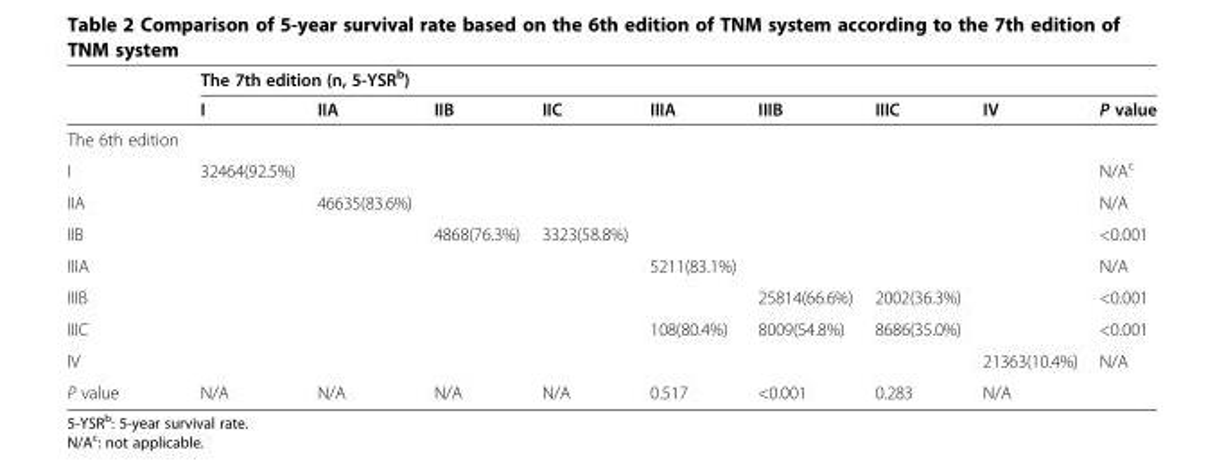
<table><thead><tr><td rowspan="2"></td><td colspan="9">The 7th edition (n, 5-YSR<sup>b</sup>)</td></tr><tr><td>I</td><td>IIA</td><td>IIB</td><td>IIC</td><td>IIIA</td><td>IIIB</td><td>IIIC</td><td>IV</td><td>P value</td></tr></thead><tbody><tr><td colspan="10">The 6th edition</td></tr><tr><td>I</td><td>32464(92.5%)</td><td></td><td></td><td></td><td></td><td></td><td></td><td></td><td>N/A<sup>c</sup></td></tr><tr><td>IIA</td><td></td><td>46635(83.6%)</td><td></td><td></td><td></td><td></td><td></td><td></td><td>N/A</td></tr><tr><td>IIB</td><td></td><td></td><td>4868(76.3%)</td><td>3323(58.8%)</td><td></td><td></td><td></td><td></td><td>&lt;0.001</td></tr><tr><td>IIIA</td><td></td><td></td><td></td><td></td><td>5211(83.1%)</td><td></td><td></td><td></td><td>N/A</td></tr><tr><td>IIIB</td><td></td><td></td><td></td><td></td><td></td><td>25814(66.6%)</td><td>2002(36.3%)</td><td></td><td>&lt;0.001</td></tr><tr><td>IIIC</td><td></td><td></td><td></td><td></td><td>108(80.4%)</td><td>8009(54.8%)</td><td>8686(35.0%)</td><td></td><td>&lt;0.001</td></tr><tr><td>IV</td><td></td><td></td><td></td><td></td><td></td><td></td><td></td><td>21363(10.4%)</td><td>N/A</td></tr><tr><td>P value</td><td>N/A</td><td>N/A</td><td>N/A</td><td>N/A</td><td>0.517</td><td>&lt;0.001</td><td>0.283</td><td>N/A</td><td></td></tr></tbody></table>